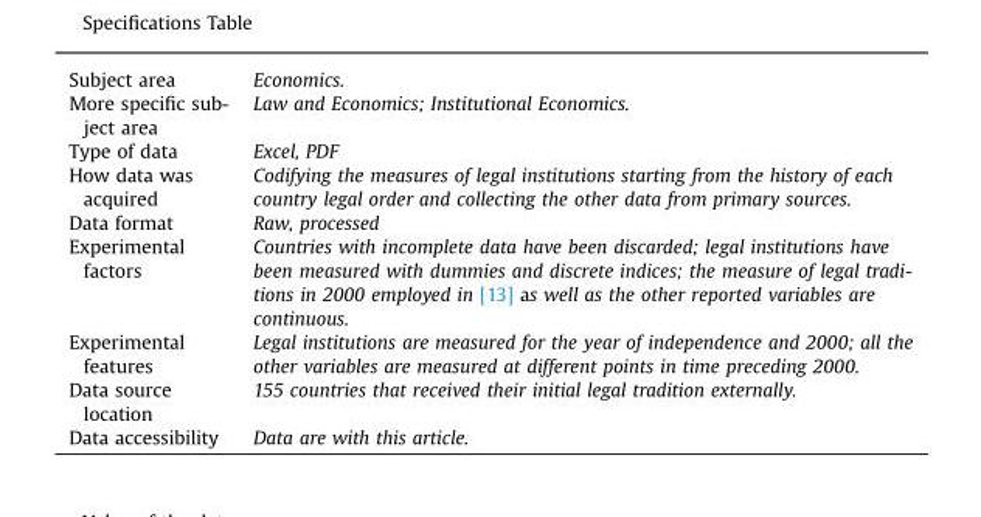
<table><tbody><tr><td>Subject area</td><td>Economics.</td></tr><tr><td>More specific sub- ject area</td><td>Law and Economics; Institutional Economics.</td></tr><tr><td>Type of data</td><td>Excel, PDF</td></tr><tr><td>How data was acquired</td><td>Codifying the measures of legal institutions starting from the history of each country legal order and collecting the other data from primary sources.</td></tr><tr><td>Data format</td><td>Raw, processed</td></tr><tr><td>Experimental factors</td><td>Countries with incomplete data have been discarded; legal institutions have been measured with dummies and discrete indices; the measure of legal tradi- tions in 2000 employed in [13] as well as the other reported variables are continuous.</td></tr><tr><td>Experimental features</td><td>Legal institutions are measured for the year of independence and 2000; all the other variables are measured at different points in time preceding 2000.</td></tr><tr><td>Data source location</td><td>155 countries that received their initial legal tradition externally.</td></tr><tr><td>Data accessibility</td><td>Data are with this article.</td></tr></tbody></table>